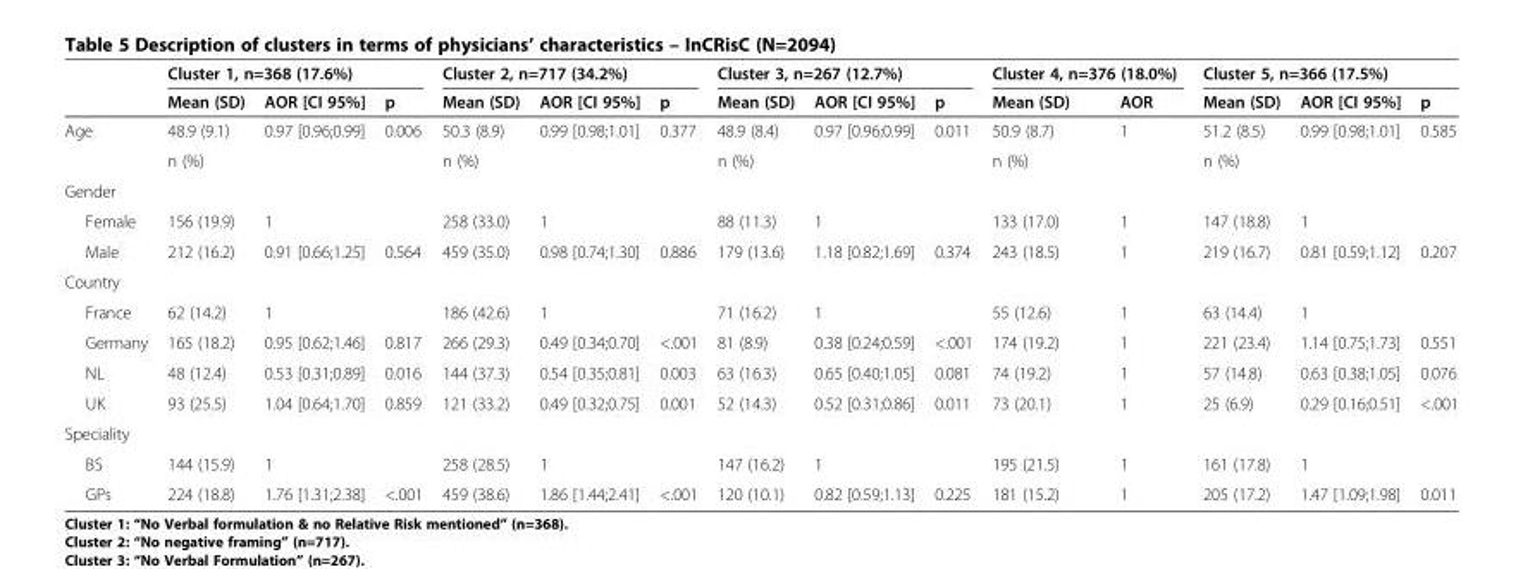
<table><thead><tr><td rowspan="2"></td><td colspan="3">Cluster 1, n=368 (17.6%)</td><td colspan="3">Cluster 2, n=717 (34.2%)</td><td colspan="3">Cluster 3, n=267 (12.7%)</td><td colspan="2">Cluster 4, n=376 (18.0%)</td><td colspan="3">Cluster 5, n=366 (17.5%)</td></tr><tr><td>Mean (SD)</td><td>AOR [CI 95%]</td><td>p</td><td>Mean (SD)</td><td>AOR [CI 95%]</td><td>p</td><td>Mean (SD)</td><td>AOR [CI 95%]</td><td>p</td><td>Mean (SD)</td><td>AOR</td><td>Mean (SD)</td><td>AOR [CI 95%]</td><td>p</td></tr></thead><tbody><tr><td rowspan="2">Age</td><td>48.9 (9.1)</td><td>0.97 [0.96;0.99]</td><td>0.006</td><td>50.3 (8.9)</td><td>0.99 [0.98;1.01]</td><td>0.377</td><td>48.9 (8.4)</td><td>0.97 [0.96;0.99]</td><td>0.011</td><td>50.9 (8.7)</td><td>1</td><td>51.2 (8.5)</td><td>0.99 [0.98;1.01]</td><td>0.585</td></tr><tr><td>n (%)</td><td></td><td></td><td>n (%)</td><td></td><td></td><td>n (%)</td><td></td><td></td><td>n (%)</td><td></td><td>n (%)</td><td></td><td></td></tr><tr><td colspan="15">Gender</td></tr><tr><td>Female</td><td>156 (19.9)</td><td>1</td><td></td><td>258 (33.0)</td><td>1</td><td></td><td>88 (11.3)</td><td>1</td><td></td><td>133 (17.0)</td><td>1</td><td>147 (18.8)</td><td>1</td><td></td></tr><tr><td>Male</td><td>212 (16.2)</td><td>0.91 [0.66;1.25]</td><td>0.564</td><td>459 (35.0)</td><td>0.98 [0.74;1.30]</td><td>0.886</td><td>179 (13.6)</td><td>1.18 [0.82;1.69]</td><td>0.374</td><td>243 (18.5)</td><td>1</td><td>219 (16.7)</td><td>0.81 [0.59;1.12]</td><td>0.207</td></tr><tr><td colspan="15">Country</td></tr><tr><td>France</td><td>62 (14.2)</td><td>1</td><td></td><td>186 (42.6)</td><td>1</td><td></td><td>71 (16.2)</td><td>1</td><td></td><td>55 (12.6)</td><td>1</td><td>63 (14.4)</td><td>1</td><td></td></tr><tr><td>Germany</td><td>165 (18.2)</td><td>0.95 [0.62;1.46]</td><td>0.817</td><td>266 (29.3)</td><td>0.49 [0.34;0.70]</td><td>&lt;.001</td><td>81 (8.9)</td><td>0.38 [0.24;0.59]</td><td>&lt;.001</td><td>174 (19.2)</td><td>1</td><td>221 (23.4)</td><td>1.14 [0.75;1.73]</td><td>0.551</td></tr><tr><td>NL</td><td>48 (12.4)</td><td>0.53 [0.31;0.89]</td><td>0.016</td><td>144 (37.3)</td><td>0.54 [0.35;0.81]</td><td>0.003</td><td>63 (16.3)</td><td>0.65 [0.40;1.05]</td><td>0.081</td><td>74 (19.2)</td><td>1</td><td>57 (14.8)</td><td>0.63 [0.38;1.05]</td><td>0.076</td></tr><tr><td>UK</td><td>93 (25.5)</td><td>1.04 [0.64;1.70]</td><td>0.859</td><td>121 (33.2)</td><td>0.49 [0.32;0.75]</td><td>0.001</td><td>52 (14.3)</td><td>0.52 [0.31;0.86]</td><td>0.011</td><td>73 (20.1)</td><td>1</td><td>25 (6.9)</td><td>0.29 [0.16;0.51]</td><td>&lt;.001</td></tr><tr><td colspan="15">Speciality</td></tr><tr><td>BS</td><td>144 (15.9)</td><td>1</td><td></td><td>258 (28.5)</td><td>1</td><td></td><td>147 (16.2)</td><td>1</td><td></td><td>195 (21.5)</td><td>1</td><td>161 (17.8)</td><td>1</td><td></td></tr><tr><td>GPs</td><td>224 (18.8)</td><td>1.76 [1.31;2.38]</td><td>&lt;.001</td><td>459 (38.6)</td><td>1.86 [1.44;2.41]</td><td>&lt;.001</td><td>120 (10.1)</td><td>0.82 [0.59;1.13]</td><td>0.225</td><td>181 (15.2)</td><td>1</td><td>205 (17.2)</td><td>1.47 [1.09;1.98]</td><td>0.011</td></tr></tbody></table>